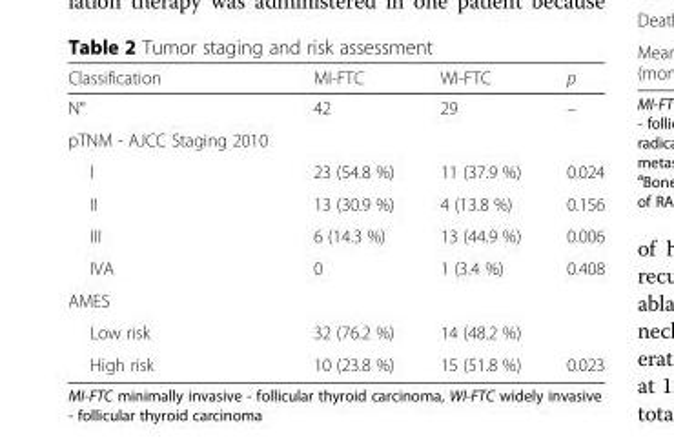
<table><thead><tr><td>Classification</td><td>MI-FTC</td><td>WI-FTC</td><td>p</td></tr></thead><tbody><tr><td>N°</td><td>42</td><td>29</td><td>–</td></tr><tr><td colspan="4">pTNM - AJCC Staging 2010</td></tr><tr><td>I</td><td>23 (54.8 %)</td><td>11 (37.9 %)</td><td>0.024</td></tr><tr><td>II</td><td>13 (30.9 %)</td><td>4 (13.8 %)</td><td>0.156</td></tr><tr><td>III</td><td>6 (14.3 %)</td><td>13 (44.9 %)</td><td>0.006</td></tr><tr><td>IVA</td><td>0</td><td>1 (3.4 %)</td><td>0.408</td></tr><tr><td colspan="4">AMES</td></tr><tr><td>Low risk</td><td>32 (76.2 %)</td><td>14 (48.2 %)</td><td></td></tr><tr><td>High risk</td><td>10 (23.8 %)</td><td>15 (51.8 %)</td><td>0.023</td></tr></tbody></table>